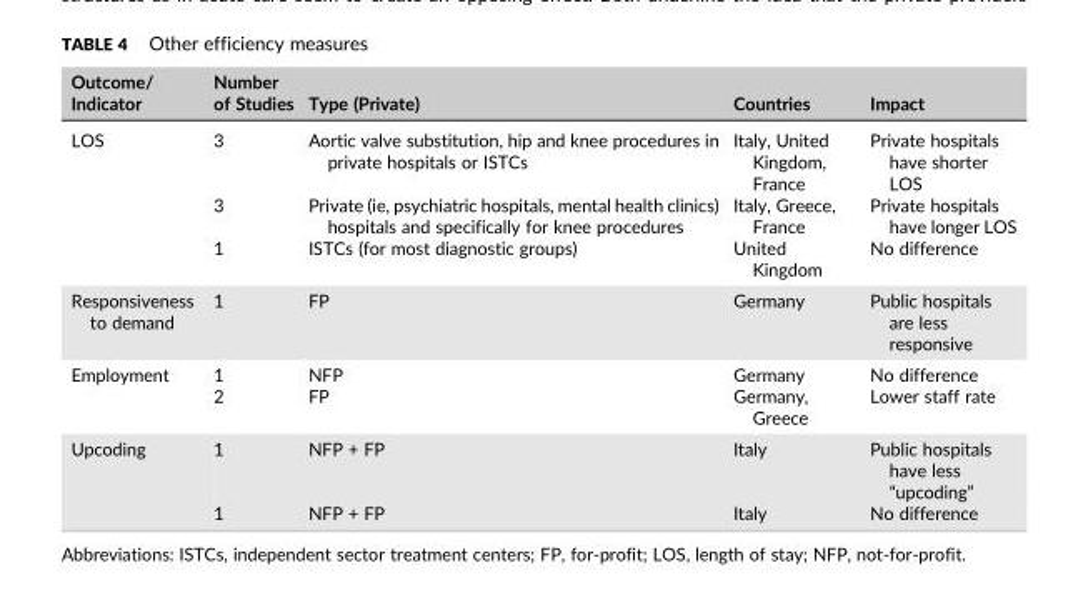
<table><thead><tr><td>Outcome/ Indicator</td><td>Number of Studies</td><td>Type (Private)</td><td>Countries</td><td>Impact</td></tr></thead><tbody><tr><td rowspan="3">LOS</td><td>3</td><td>Aortic valve substitution, hip and knee procedures in private hospitals or ISTCs</td><td>Italy, United Kingdom, France</td><td>Private hospitals have shorter LOS</td></tr><tr><td>3</td><td>Private (ie, psychiatric hospitals, mental health clinics) hospitals and specifically for knee procedures</td><td>Italy, Greece, France</td><td>Private hospitals have longer LOS</td></tr><tr><td>1</td><td>ISTCs (for most diagnostic groups)</td><td>United Kingdom</td><td>No difference</td></tr><tr><td>Responsiveness to demand</td><td>1</td><td>FP</td><td>Germany</td><td>Public hospitals are less responsive</td></tr><tr><td rowspan="2">Employment</td><td>1</td><td>NFP</td><td>Germany</td><td>No difference</td></tr><tr><td>2</td><td>FP</td><td>Germany, Greece</td><td>Lower staff rate</td></tr><tr><td rowspan="2">Upcoding</td><td>1</td><td>NFP + FP</td><td>Italy</td><td>Public hospitals have less “upcoding”</td></tr><tr><td>1</td><td>NFP + FP</td><td>Italy</td><td>No difference</td></tr></tbody></table>